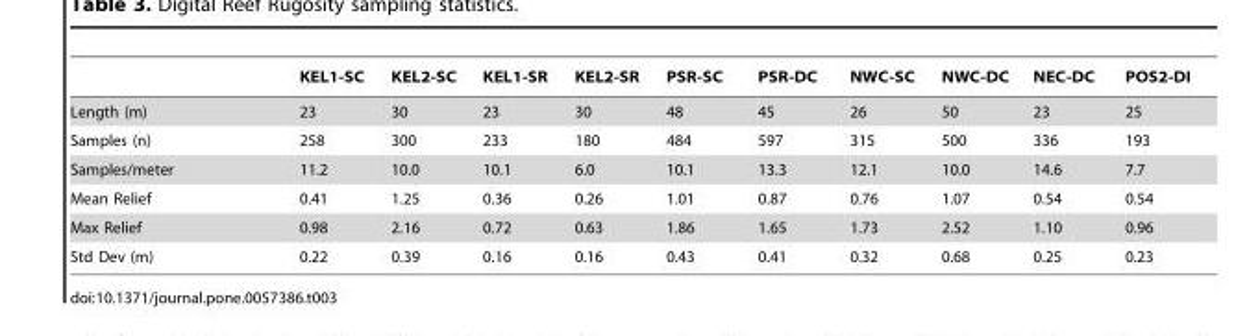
<table><thead><tr><td></td><td>KEL1-SC</td><td>KEL2-SC</td><td>KEL1-SR</td><td>KEL2-SR</td><td>PSR-SC</td><td>PSR-DC</td><td>NWC-SC</td><td>NWC-DC</td><td>NEC-DC</td><td>POS2-DI</td></tr></thead><tbody><tr><td>Length (m)</td><td>23</td><td>30</td><td>23</td><td>30</td><td>48</td><td>45</td><td>26</td><td>50</td><td>23</td><td>25</td></tr><tr><td>Samples (n)</td><td>258</td><td>300</td><td>233</td><td>180</td><td>484</td><td>597</td><td>315</td><td>500</td><td>336</td><td>193</td></tr><tr><td>Samples/meter</td><td>11.2</td><td>10.0</td><td>10.1</td><td>6.0</td><td>10.1</td><td>13.3</td><td>12.1</td><td>10.0</td><td>14.6</td><td>7.7</td></tr><tr><td>Mean Relief</td><td>0.41</td><td>1.25</td><td>0.36</td><td>0.26</td><td>1.01</td><td>0.87</td><td>0.76</td><td>1.07</td><td>0.54</td><td>0.54</td></tr><tr><td>Max Relief</td><td>0.98</td><td>2.16</td><td>0.72</td><td>0.63</td><td>1.86</td><td>1.65</td><td>1.73</td><td>2.52</td><td>1.10</td><td>0.96</td></tr><tr><td>Std Dev (m)</td><td>0.22</td><td>0.39</td><td>0.16</td><td>0.16</td><td>0.43</td><td>0.41</td><td>0.32</td><td>0.68</td><td>0.25</td><td>0.23</td></tr></tbody></table>